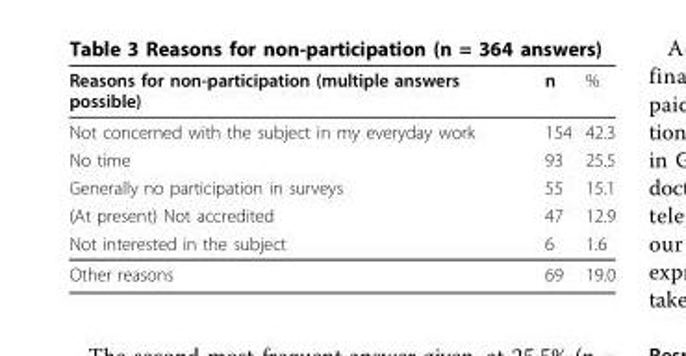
<table><thead><tr><td>Reasons for non-participation (multiple answers possible)</td><td>n</td><td>%</td></tr></thead><tbody><tr><td>Not concerned with the subject in my everyday work</td><td>154</td><td>42.3</td></tr><tr><td>No time</td><td>93</td><td>25.5</td></tr><tr><td>Generally no participation in surveys</td><td>55</td><td>15.1</td></tr><tr><td>(At present) Not accredited</td><td>47</td><td>12.9</td></tr><tr><td>Not interested in the subject</td><td>6</td><td>1.6</td></tr><tr><td>Other reasons</td><td>69</td><td>19.0</td></tr></tbody></table>